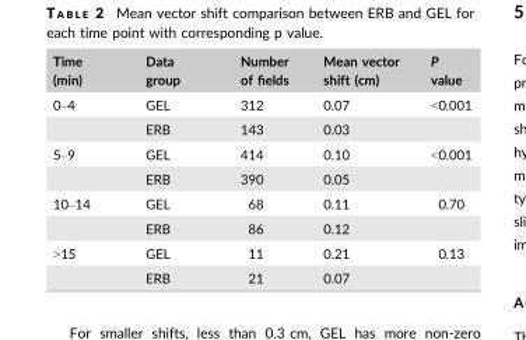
<table><thead><tr><td>Time (min)</td><td>Data group</td><td>Number of fields</td><td>Mean vector shift (cm)</td><td>P value</td></tr></thead><tbody><tr><td rowspan="2">0–4</td><td>GEL</td><td>312</td><td>0.07</td><td>&lt;0.001</td></tr><tr><td>ERB</td><td>143</td><td>0.03</td><td></td></tr><tr><td rowspan="2">5–9</td><td>GEL</td><td>414</td><td>0.10</td><td>&lt;0.001</td></tr><tr><td>ERB</td><td>390</td><td>0.05</td><td></td></tr><tr><td rowspan="2">10–14</td><td>GEL</td><td>68</td><td>0.11</td><td>0.70</td></tr><tr><td>ERB</td><td>86</td><td>0.12</td><td></td></tr><tr><td rowspan="2">&gt;15</td><td>GEL</td><td>11</td><td>0.21</td><td>0.13</td></tr><tr><td>ERB</td><td>21</td><td>0.07</td><td></td></tr></tbody></table>